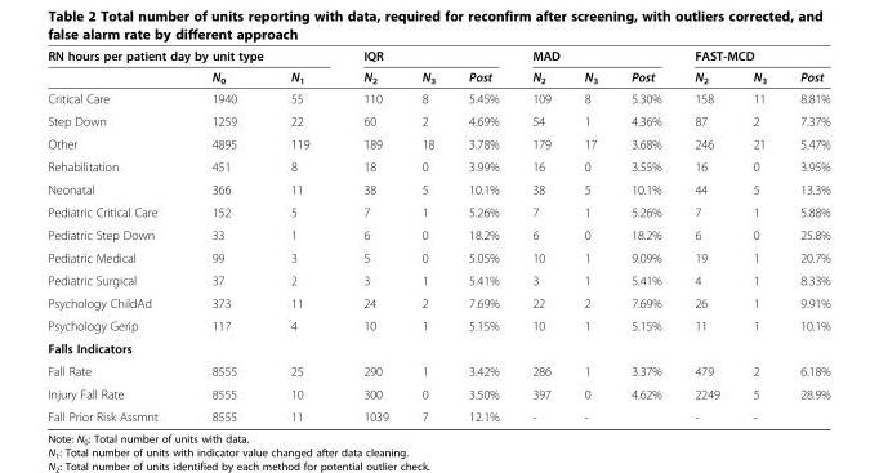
<table><thead><tr><td colspan="3">RN hours per patient day by unit type</td><td colspan="3">IQR</td><td colspan="3">MAD</td><td colspan="3">FAST-MCD</td></tr><tr><td></td><td>N<sub>0</sub></td><td>N<sub>1</sub></td><td>N<sub>2</sub></td><td>N<sub>3</sub></td><td>Post</td><td>N<sub>2</sub></td><td>N<sub>3</sub></td><td>Post</td><td>N<sub>2</sub></td><td>N<sub>3</sub></td><td>Post</td></tr></thead><tbody><tr><td>Critical Care</td><td>1940</td><td>55</td><td>110</td><td>8</td><td>5.45%</td><td>109</td><td>8</td><td>5.30%</td><td>158</td><td>11</td><td>8.81%</td></tr><tr><td>Step Down</td><td>1259</td><td>22</td><td>60</td><td>2</td><td>4.69%</td><td>54</td><td>1</td><td>4.36%</td><td>87</td><td>2</td><td>7.37%</td></tr><tr><td>Other</td><td>4895</td><td>119</td><td>189</td><td>18</td><td>3.78%</td><td>179</td><td>17</td><td>3.68%</td><td>246</td><td>21</td><td>5.47%</td></tr><tr><td>Rehabilitation</td><td>451</td><td>8</td><td>18</td><td>0</td><td>3.99%</td><td>16</td><td>0</td><td>3.55%</td><td>16</td><td>0</td><td>3.95%</td></tr><tr><td>Neonatal</td><td>366</td><td>11</td><td>38</td><td>5</td><td>10.1%</td><td>38</td><td>5</td><td>10.1%</td><td>44</td><td>5</td><td>13.3%</td></tr><tr><td>Pediatric Critical Care</td><td>152</td><td>5</td><td>7</td><td>1</td><td>5.26%</td><td>7</td><td>1</td><td>5.26%</td><td>7</td><td>1</td><td>5.88%</td></tr><tr><td>Pediatric Step Down</td><td>33</td><td>1</td><td>6</td><td>0</td><td>18.2%</td><td>6</td><td>0</td><td>18.2%</td><td>6</td><td>0</td><td>25.8%</td></tr><tr><td>Pediatric Medical</td><td>99</td><td>3</td><td>5</td><td>0</td><td>5.05%</td><td>10</td><td>1</td><td>9.09%</td><td>19</td><td>1</td><td>20.7%</td></tr><tr><td>Pediatric Surgical</td><td>37</td><td>2</td><td>3</td><td>1</td><td>5.41%</td><td>3</td><td>1</td><td>5.41%</td><td>4</td><td>1</td><td>8.33%</td></tr><tr><td>Psychology ChildAd</td><td>373</td><td>11</td><td>24</td><td>2</td><td>7.69%</td><td>22</td><td>2</td><td>7.69%</td><td>26</td><td>1</td><td>9.91%</td></tr><tr><td>Psychology Gerip</td><td>117</td><td>4</td><td>10</td><td>1</td><td>5.15%</td><td>10</td><td>1</td><td>5.15%</td><td>11</td><td>1</td><td>10.1%</td></tr><tr><td colspan="12">Falls Indicators</td></tr><tr><td>Fall Rate</td><td>8555</td><td>25</td><td>290</td><td>1</td><td>3.42%</td><td>286</td><td>1</td><td>3.37%</td><td>479</td><td>2</td><td>6.18%</td></tr><tr><td>Injury Fall Rate</td><td>8555</td><td>10</td><td>300</td><td>0</td><td>3.50%</td><td>397</td><td>0</td><td>4.62%</td><td>2249</td><td>5</td><td>28.9%</td></tr><tr><td>Fall Prior Risk Assmnt</td><td>8555</td><td>11</td><td>1039</td><td>7</td><td>12.1%</td><td>-</td><td>-</td><td></td><td>-</td><td>-</td><td></td></tr></tbody></table>